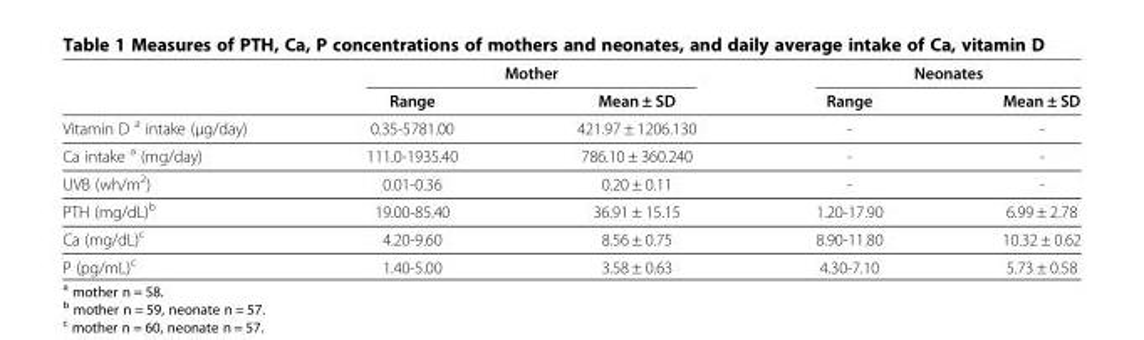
<table><thead><tr><td rowspan="2"></td><td colspan="2">Mother</td><td colspan="2">Neonates</td></tr><tr><td>Range</td><td>Mean ± SD</td><td>Range</td><td>Mean ± SD</td></tr></thead><tbody><tr><td>Vitamin D <sup>a</sup> intake (μg/day)</td><td>0.35-5781.00</td><td>421.97 ± 1206.130</td><td>-</td><td>-</td></tr><tr><td>Ca intake <sup>a</sup> (mg/day)</td><td>111.0-1935.40</td><td>786.10 ± 360.240</td><td>-</td><td>-</td></tr><tr><td>UVB (wh/m<sup>2</sup>)</td><td>0.01-0.36</td><td>0.20 ± 0.11</td><td>-</td><td>-</td></tr><tr><td>PTH (mg/dL)<sup>b</sup></td><td>19.00-85.40</td><td>36.91 ± 15.15</td><td>1.20-17.90</td><td>6.99 ± 2.78</td></tr><tr><td>Ca (mg/dL)<sup>c</sup></td><td>4.20-9.60</td><td>8.56 ± 0.75</td><td>8.90-11.80</td><td>10.32 ± 0.62</td></tr><tr><td>P (pg/mL)<sup>c</sup></td><td>1.40-5.00</td><td>3.58 ± 0.63</td><td>4.30-7.10</td><td>5.73 ± 0.58</td></tr></tbody></table>